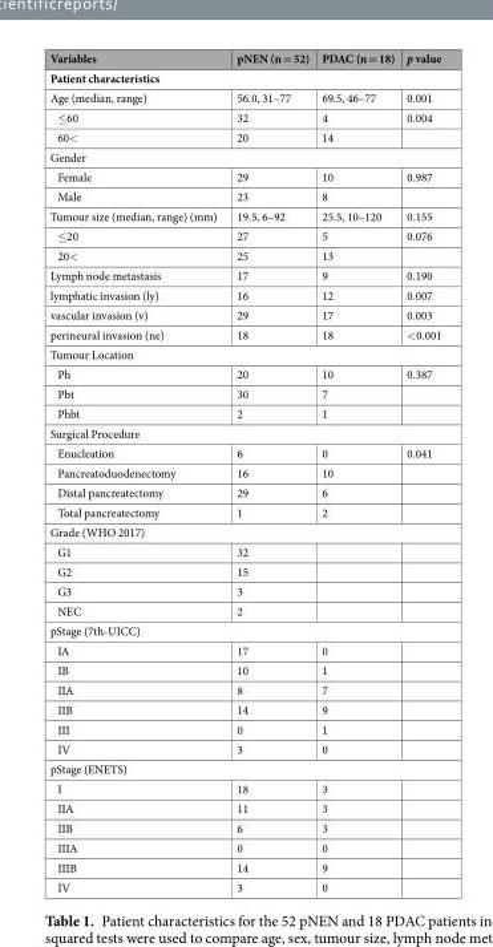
<table><thead><tr><td>Variables</td><td>pNEN (n = 52)</td><td>PDAC (n = 18)</td><td>p value</td></tr></thead><tbody><tr><td colspan="4">Patient characteristics</td></tr><tr><td>Age (median, range)</td><td>56.0, 31–77</td><td>69.5, 46–77</td><td>0.001</td></tr><tr><td>≤60</td><td>32</td><td>4</td><td>0.004</td></tr><tr><td>60&lt;</td><td>20</td><td>14</td><td></td></tr><tr><td colspan="4">Gender</td></tr><tr><td>Female</td><td>29</td><td>10</td><td>0.987</td></tr><tr><td>Male</td><td>23</td><td>8</td><td></td></tr><tr><td>Tumour size (median, range) (mm)</td><td>19.5, 6–92</td><td>25.5, 10–120</td><td>0.155</td></tr><tr><td>≤20</td><td>27</td><td>5</td><td>0.076</td></tr><tr><td>20&lt;</td><td>25</td><td>13</td><td></td></tr><tr><td>Lymph node metastasis</td><td>17</td><td>9</td><td>0.190</td></tr><tr><td>lymphatic invasion (ly)</td><td>16</td><td>12</td><td>0.007</td></tr><tr><td>vascular invasion (v)</td><td>29</td><td>17</td><td>0.003</td></tr><tr><td>perineural invasion (ne)</td><td>18</td><td>18</td><td>&lt;0.001</td></tr><tr><td colspan="4">Tumour Location</td></tr><tr><td>Ph</td><td>20</td><td>10</td><td>0.387</td></tr><tr><td>Pbt</td><td>30</td><td>7</td><td></td></tr><tr><td>Phbt</td><td>2</td><td>1</td><td></td></tr><tr><td colspan="4">Surgical Procedure</td></tr><tr><td>Enucleation</td><td>6</td><td>0</td><td>0.041</td></tr><tr><td>Pancreatoduodenectomy</td><td>16</td><td>10</td><td></td></tr><tr><td>Distal pancreatectomy</td><td>29</td><td>6</td><td></td></tr><tr><td>Total pancreatectomy</td><td>1</td><td>2</td><td></td></tr><tr><td colspan="4">Grade (WHO 2017)</td></tr><tr><td>G1</td><td>32</td><td></td><td></td></tr><tr><td>G2</td><td>15</td><td></td><td></td></tr><tr><td>G3</td><td>3</td><td></td><td></td></tr><tr><td>NEC</td><td>2</td><td></td><td></td></tr><tr><td colspan="4">pStage (7th-UICC)</td></tr><tr><td>IA</td><td>17</td><td>0</td><td></td></tr><tr><td>IB</td><td>10</td><td>1</td><td></td></tr><tr><td>IIA</td><td>8</td><td>7</td><td></td></tr><tr><td>IIB</td><td>14</td><td>9</td><td></td></tr><tr><td>III</td><td>0</td><td>1</td><td></td></tr><tr><td>IV</td><td>3</td><td>0</td><td></td></tr><tr><td colspan="4">pStage (ENETS)</td></tr><tr><td>I</td><td>18</td><td>3</td><td></td></tr><tr><td>IIA</td><td>11</td><td>3</td><td></td></tr><tr><td>IIB</td><td>6</td><td>3</td><td></td></tr><tr><td>IIIA</td><td>0</td><td>0</td><td></td></tr><tr><td>IIIB</td><td>14</td><td>9</td><td></td></tr><tr><td>IV</td><td>3</td><td>0</td><td></td></tr></tbody></table>